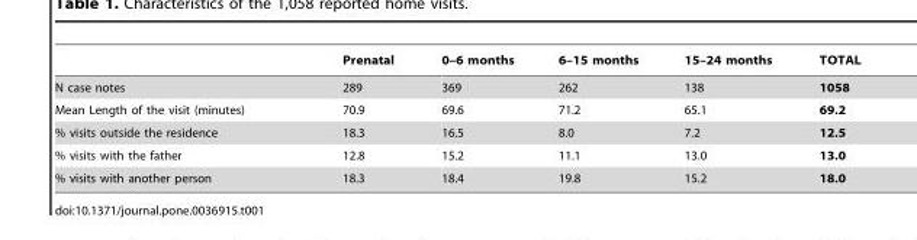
<table><thead><tr><td></td><td>Prenatal</td><td>0–6 months</td><td>6–15 months</td><td>15–24 months</td><td>TOTAL</td></tr></thead><tbody><tr><td>N case notes</td><td>289</td><td>369</td><td>262</td><td>138</td><td>1058</td></tr><tr><td>Mean Length of the visit (minutes)</td><td>70.9</td><td>69.6</td><td>71.2</td><td>65.1</td><td>69.2</td></tr><tr><td>% visits outside the residence</td><td>18.3</td><td>16.5</td><td>8.0</td><td>7.2</td><td>12.5</td></tr><tr><td>% visits with the father</td><td>12.8</td><td>15.2</td><td>11.1</td><td>13.0</td><td>13.0</td></tr><tr><td>% visits with another person</td><td>18.3</td><td>18.4</td><td>19.8</td><td>15.2</td><td>18.0</td></tr></tbody></table>